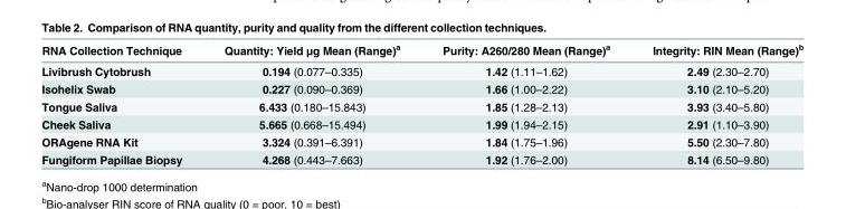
<table><thead><tr><td>RNA Collection Technique</td><td>Quantity: Yield μg Mean (Range)<sup>a</sup></td><td>Purity: A260/280 Mean (Range)<sup>a</sup></td><td>Integrity: RIN Mean (Range)<sup>b</sup></td></tr></thead><tbody><tr><td>Livibrush Cytobrush</td><td>0.194 (0.077–0.335)</td><td>1.42 (1.11–1.62)</td><td>2.49 (2.30–2.70)</td></tr><tr><td>Isohelix Swab</td><td>0.227 (0.090–0.369)</td><td>1.66 (1.00–2.22)</td><td>3.10 (2.10–5.20)</td></tr><tr><td>Tongue Saliva</td><td>6.433 (0.180–15.843)</td><td>1.85 (1.28–2.13)</td><td>3.93 (3.40–5.80)</td></tr><tr><td>Cheek Saliva</td><td>5.665 (0.668–15.494)</td><td>1.99 (1.94–2.15)</td><td>2.91 (1.10–3.90)</td></tr><tr><td>ORAgene RNA Kit</td><td>3.324 (0.391–6.391)</td><td>1.84 (1.75–1.96)</td><td>5.50 (2.30–7.80)</td></tr><tr><td>Fungiform Papillae Biopsy</td><td>4.268 (0.443–7.663)</td><td>1.92 (1.76–2.00)</td><td>8.14 (6.50–9.80)</td></tr></tbody></table>